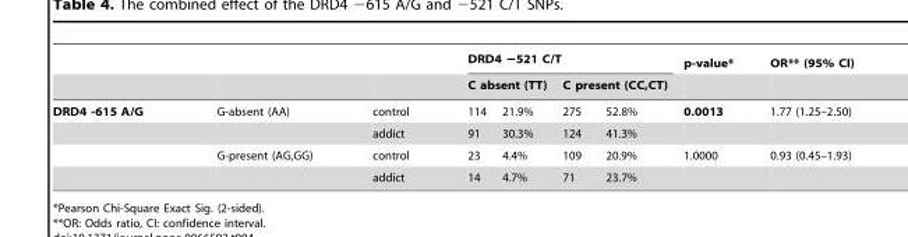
<table><thead><tr><td rowspan="3">DRD4 -615 A/G</td><td rowspan="3">G-absent (AA)</td><td rowspan="3">control</td><td colspan="4">DRD4 −521 C/T</td><td rowspan="3">p-value* 0.0013</td><td rowspan="3">OR** (95% CI) 1.77 (1.25–2.50)</td></tr><tr><td colspan="2">C absent (TT)</td><td colspan="2">C present (CC,CT)</td></tr><tr><td>114</td><td>21.9%</td><td>275</td><td>52.8%</td></tr></thead><tbody><tr><td></td><td></td><td>addict</td><td>91</td><td>30.3%</td><td>124</td><td>41.3%</td><td></td><td></td></tr><tr><td></td><td>G-present (AG,GG)</td><td>control</td><td>23</td><td>4.4%</td><td>109</td><td>20.9%</td><td>1.0000</td><td>0.93 (0.45–1.93)</td></tr><tr><td></td><td></td><td>addict</td><td>14</td><td>4.7%</td><td>71</td><td>23.7%</td><td></td><td></td></tr></tbody></table>